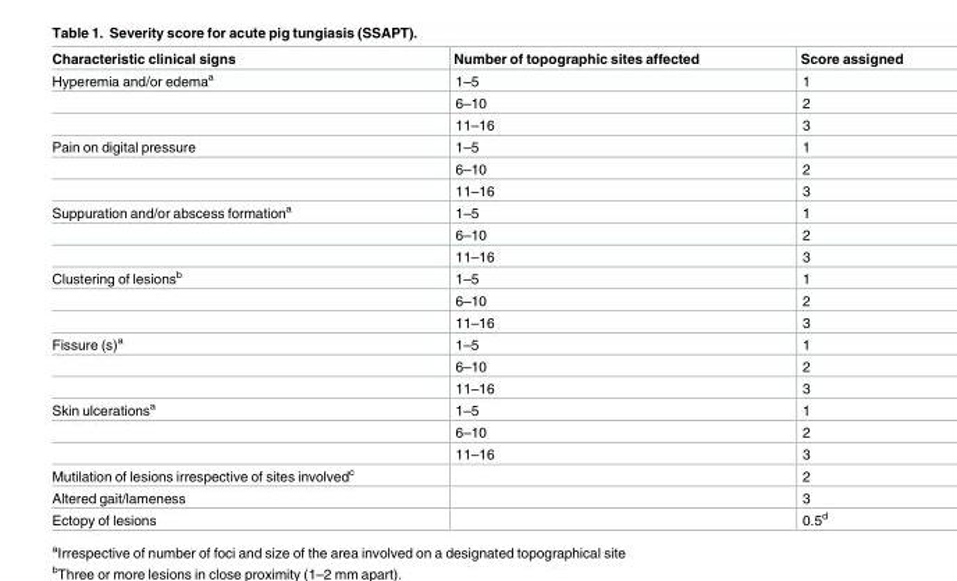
<table><thead><tr><td>Characteristic clinical signs</td><td>Number of topographic sites affected</td><td>Score assigned</td></tr></thead><tbody><tr><td rowspan="3">Hyperemia and/or edema<sup>a</sup></td><td>1–5</td><td>1</td></tr><tr><td>6–10</td><td>2</td></tr><tr><td>11–16</td><td>3</td></tr><tr><td rowspan="3">Pain on digital pressure</td><td>1–5</td><td>1</td></tr><tr><td>6–10</td><td>2</td></tr><tr><td>11–16</td><td>3</td></tr><tr><td rowspan="3">Suppuration and/or abscess formation<sup>a</sup></td><td>1–5</td><td>1</td></tr><tr><td>6–10</td><td>2</td></tr><tr><td>11–16</td><td>3</td></tr><tr><td rowspan="3">Clustering of lesions<sup>b</sup></td><td>1–5</td><td>1</td></tr><tr><td>6–10</td><td>2</td></tr><tr><td>11–16</td><td>3</td></tr><tr><td rowspan="3">Fissure (s)<sup>a</sup></td><td>1–5</td><td>1</td></tr><tr><td>6–10</td><td>2</td></tr><tr><td>11–16</td><td>3</td></tr><tr><td rowspan="3">Skin ulcerations<sup>a</sup></td><td>1–5</td><td>1</td></tr><tr><td>6–10</td><td>2</td></tr><tr><td>11–16</td><td>3</td></tr><tr><td>Mutilation of lesions irrespective of sites involved<sup>c</sup></td><td></td><td>2</td></tr><tr><td>Altered gait/lameness</td><td></td><td>3</td></tr><tr><td>Ectopy of lesions</td><td></td><td>0.5<sup>d</sup></td></tr></tbody></table>